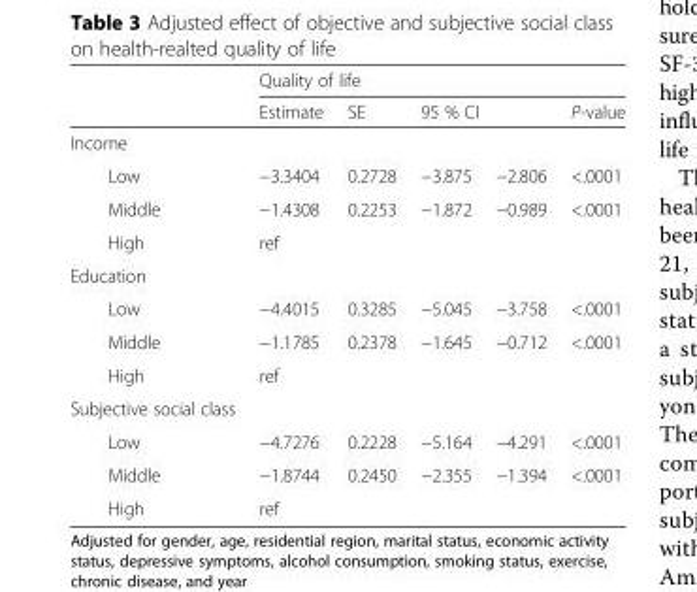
<table><thead><tr><td rowspan="3">Income</td><td colspan="5">Quality of life</td></tr><tr><td rowspan="2">Estimate</td><td rowspan="2">SE</td><td colspan="2">95 % CI</td><td rowspan="2">P-value</td></tr><tr><td></td><td></td></tr></thead><tbody><tr><td>Low</td><td>−3.3404</td><td>0.2728</td><td>−3.875</td><td>−2.806</td><td>&lt;.0001</td></tr><tr><td>Middle</td><td>−1.4308</td><td>0.2253</td><td>−1.872</td><td>−0.989</td><td>&lt;.0001</td></tr><tr><td>High</td><td>ref</td><td></td><td></td><td></td><td></td></tr><tr><td colspan="6">Education</td></tr><tr><td>Low</td><td>−4.4015</td><td>0.3285</td><td>−5.045</td><td>−3.758</td><td>&lt;.0001</td></tr><tr><td>Middle</td><td>−1.1785</td><td>0.2378</td><td>−1.645</td><td>−0.712</td><td>&lt;.0001</td></tr><tr><td>High</td><td>ref</td><td></td><td></td><td></td><td></td></tr><tr><td colspan="6">Subjective social class</td></tr><tr><td>Low</td><td>−4.7276</td><td>0.2228</td><td>−5.164</td><td>−4.291</td><td>&lt;.0001</td></tr><tr><td>Middle</td><td>−1.8744</td><td>0.2450</td><td>−2.355</td><td>−1.394</td><td>&lt;.0001</td></tr><tr><td>High</td><td>ref</td><td></td><td></td><td></td><td></td></tr></tbody></table>